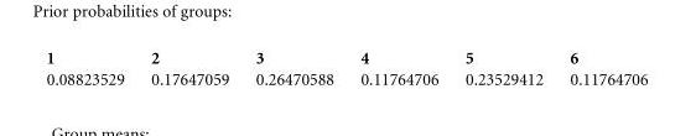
<table><tbody><tr><td>1</td><td>2</td><td>3</td><td>4</td><td>5</td><td>6</td></tr><tr><td>0.08823529</td><td>0.17647059</td><td>0.26470588</td><td>0.11764706</td><td>0.23529412</td><td>0.11764706</td></tr></tbody></table>